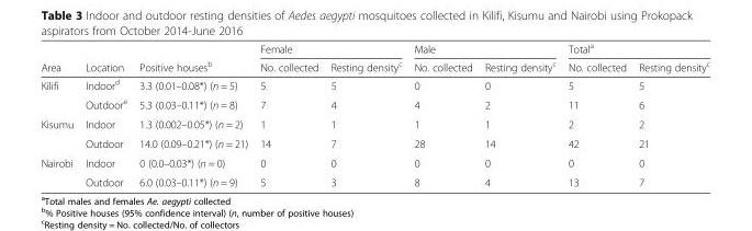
<table><thead><tr><td rowspan="2">Area</td><td rowspan="2">Location</td><td rowspan="2">Positive houses<sup>b</sup></td><td colspan="2">Female</td><td colspan="2">Male</td><td colspan="2">Total<sup>a</sup></td></tr><tr><td>No. collected</td><td>Resting density<sup>c</sup></td><td>No. collected</td><td>Resting density<sup>c</sup></td><td>No. collected</td><td>Resting density<sup>c</sup></td></tr></thead><tbody><tr><td rowspan="2">Kilifi</td><td>Indoor<sup>d</sup></td><td>3.3 (0.01–0.08*) (n = 5)</td><td>5</td><td>5</td><td>0</td><td>0</td><td>5</td><td>5</td></tr><tr><td>Outdoor<sup>e</sup></td><td>5.3 (0.03–0.11*) (n = 8)</td><td>7</td><td>4</td><td>4</td><td>2</td><td>11</td><td>6</td></tr><tr><td rowspan="2">Kisumu</td><td>Indoor</td><td>1.3 (0.002–0.05*) (n = 2)</td><td>1</td><td>1</td><td>1</td><td>1</td><td>2</td><td>2</td></tr><tr><td>Outdoor</td><td>14.0 (0.09–0.21*) (n = 21)</td><td>14</td><td>7</td><td>28</td><td>14</td><td>42</td><td>21</td></tr><tr><td rowspan="2">Nairobi</td><td>Indoor</td><td>0 (0.0–0.03*) (n = 0)</td><td>0</td><td>0</td><td>0</td><td>0</td><td>0</td><td>0</td></tr><tr><td>Outdoor</td><td>6.0 (0.03–0.11*) (n = 9)</td><td>5</td><td>3</td><td>8</td><td>4</td><td>13</td><td>7</td></tr></tbody></table>